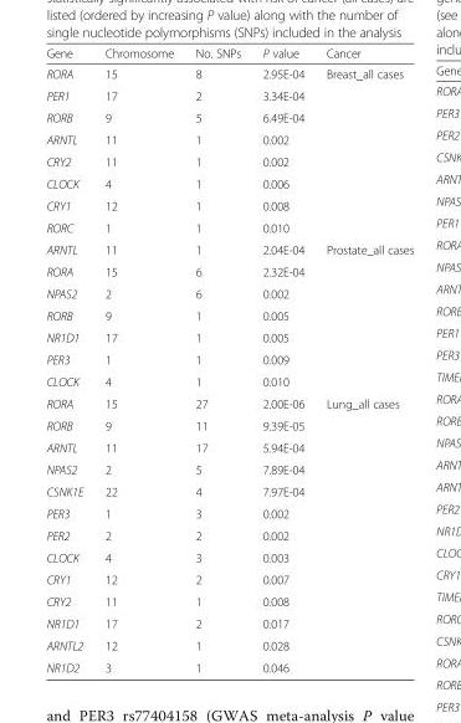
<table><thead><tr><td>Gene</td><td>Chromosome</td><td>No. SNPs</td><td>P value</td><td>Cancer</td></tr></thead><tbody><tr><td>RORA</td><td>15</td><td>8</td><td>2.95E-04</td><td rowspan="8">Breast_all cases</td></tr><tr><td>PER1</td><td>17</td><td>2</td><td>3.34E-04</td></tr><tr><td>RORB</td><td>9</td><td>5</td><td>6.49E-04</td></tr><tr><td>ARNTL</td><td>11</td><td>1</td><td>0.002</td></tr><tr><td>CRY2</td><td>11</td><td>1</td><td>0.002</td></tr><tr><td>CLOCK</td><td>4</td><td>1</td><td>0.006</td></tr><tr><td>CRY1</td><td>12</td><td>1</td><td>0.008</td></tr><tr><td>RORC</td><td>1</td><td>1</td><td>0.010</td></tr><tr><td>ARNTL</td><td>11</td><td>1</td><td>2.04E-04</td><td rowspan="7">Prostate_all cases</td></tr><tr><td>RORA</td><td>15</td><td>6</td><td>2.32E-04</td></tr><tr><td>NPAS2</td><td>2</td><td>6</td><td>0.002</td></tr><tr><td>RORB</td><td>9</td><td>1</td><td>0.005</td></tr><tr><td>NR1D1</td><td>17</td><td>1</td><td>0.005</td></tr><tr><td>PER3</td><td>1</td><td>1</td><td>0.009</td></tr><tr><td>CLOCK</td><td>4</td><td>1</td><td>0.010</td></tr><tr><td>RORA</td><td>15</td><td>27</td><td>2.00E-06</td><td rowspan="13">Lung_all cases</td></tr><tr><td>RORB</td><td>9</td><td>11</td><td>9.39E-05</td></tr><tr><td>ARNTL</td><td>11</td><td>17</td><td>5.94E-04</td></tr><tr><td>NPAS2</td><td>2</td><td>5</td><td>7.89E-04</td></tr><tr><td>CSNK1E</td><td>22</td><td>4</td><td>7.97E-04</td></tr><tr><td>PER3</td><td>1</td><td>3</td><td>0.002</td></tr><tr><td>PER2</td><td>2</td><td>2</td><td>0.002</td></tr><tr><td>CLOCK</td><td>4</td><td>3</td><td>0.003</td></tr><tr><td>CRY1</td><td>12</td><td>2</td><td>0.007</td></tr><tr><td>CRY2</td><td>11</td><td>1</td><td>0.008</td></tr><tr><td>NR1D1</td><td>17</td><td>2</td><td>0.017</td></tr><tr><td>ARNTL2</td><td>12</td><td>1</td><td>0.028</td></tr><tr><td>NR1D2</td><td>3</td><td>1</td><td>0.046</td></tr></tbody></table>